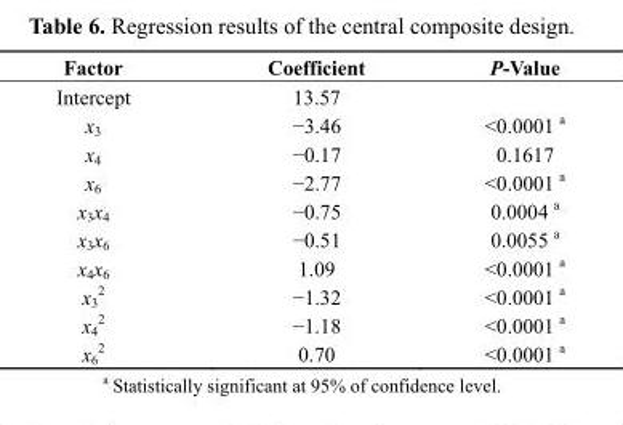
<table><thead><tr><td>Factor</td><td>Coefficient</td><td>P-Value</td></tr></thead><tbody><tr><td>Intercept</td><td>13.57</td><td></td></tr><tr><td>х3</td><td>−3.46</td><td>&lt;0.0001 a</td></tr><tr><td>x<sub>4</sub></td><td>−0.17</td><td>0.1617</td></tr><tr><td>x<sub>6</sub></td><td>−2.77</td><td>&lt;0.0001 a</td></tr><tr><td>х3x4</td><td>−0.75</td><td>0.0004 a</td></tr><tr><td>x<sub>3</sub>x<sub>6</sub></td><td>−0.51</td><td>0.0055 a</td></tr><tr><td>x<sub>4</sub>x<sub>6</sub></td><td>1.09</td><td>&lt;0.0001 a</td></tr><tr><td>x<sub>3</sub> <sup>2</sup></td><td>−1.32</td><td>&lt;0.0001 a</td></tr><tr><td>x<sub>4</sub> <sup>2</sup></td><td>−1.18</td><td>&lt;0.0001 a</td></tr><tr><td>x<sub>6</sub> <sup>2</sup></td><td>0.70</td><td>&lt;0.0001 a</td></tr></tbody></table>